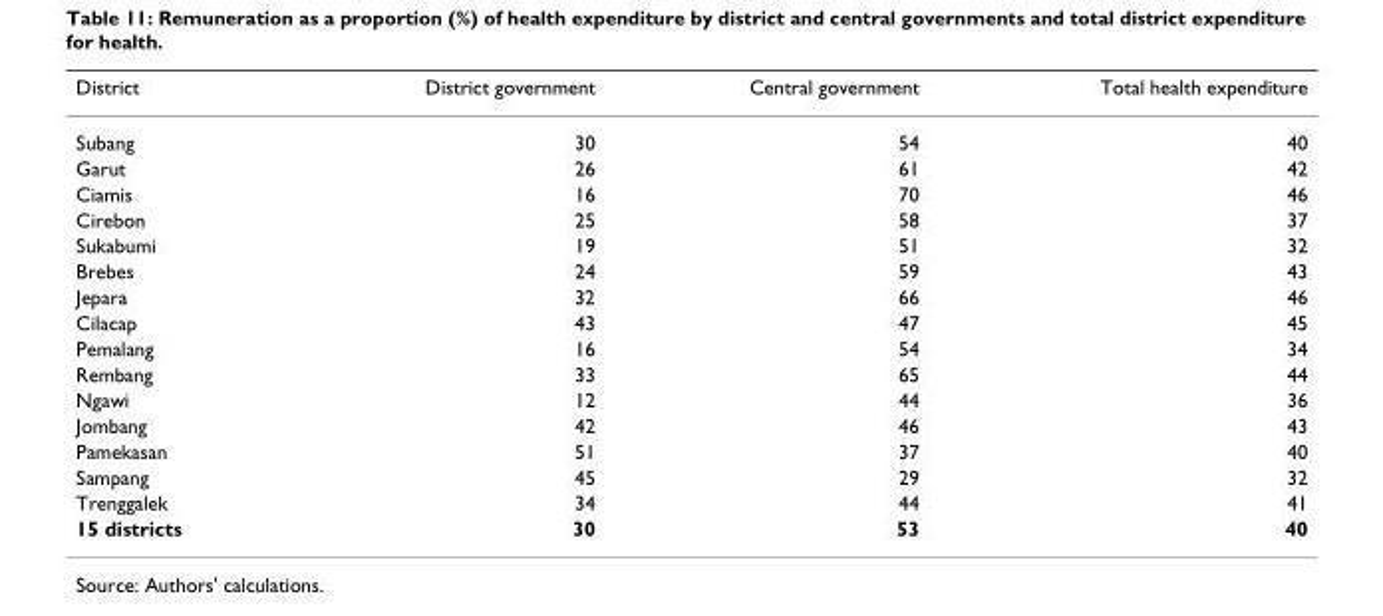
<table><thead><tr><td>District</td><td>District government</td><td>Central government</td><td>Total health expenditure</td></tr></thead><tbody><tr><td>Subang</td><td>30</td><td>54</td><td>40</td></tr><tr><td>Garut</td><td>26</td><td>61</td><td>42</td></tr><tr><td>Ciamis</td><td>16</td><td>70</td><td>46</td></tr><tr><td>Cirebon</td><td>25</td><td>58</td><td>37</td></tr><tr><td>Sukabumi</td><td>19</td><td>51</td><td>32</td></tr><tr><td>Brebes</td><td>24</td><td>59</td><td>43</td></tr><tr><td>Jepara</td><td>32</td><td>66</td><td>46</td></tr><tr><td>Cilacap</td><td>43</td><td>47</td><td>45</td></tr><tr><td>Pemalang</td><td>16</td><td>54</td><td>34</td></tr><tr><td>Rembang</td><td>33</td><td>65</td><td>44</td></tr><tr><td>Ngawi</td><td>12</td><td>44</td><td>36</td></tr><tr><td>Jombang</td><td>42</td><td>46</td><td>43</td></tr><tr><td>Pamekasan</td><td>51</td><td>37</td><td>40</td></tr><tr><td>Sampang</td><td>45</td><td>29</td><td>32</td></tr><tr><td>Trenggalek</td><td>34</td><td>44</td><td>41</td></tr><tr><td>15 districts</td><td>30</td><td>53</td><td>40</td></tr></tbody></table>